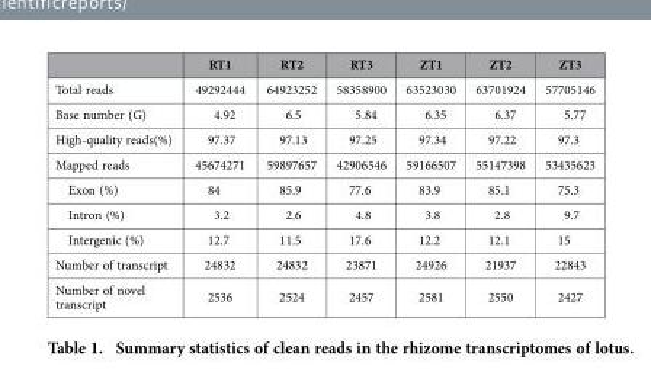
<table><thead><tr><td></td><td>RT1</td><td>RT2</td><td>RT3</td><td>ZT1</td><td>ZT2</td><td>ZT3</td></tr></thead><tbody><tr><td>Total reads</td><td>49292444</td><td>64923252</td><td>58358900</td><td>63523030</td><td>63701924</td><td>57705146</td></tr><tr><td>Base number (G)</td><td>4.92</td><td>6.5</td><td>5.84</td><td>6.35</td><td>6.37</td><td>5.77</td></tr><tr><td>High-quality reads(%)</td><td>97.37</td><td>97.13</td><td>97.25</td><td>97.34</td><td>97.22</td><td>97.3</td></tr><tr><td>Mapped reads</td><td>45674271</td><td>59897657</td><td>42906546</td><td>59166507</td><td>55147398</td><td>53435623</td></tr><tr><td>Exon (%)</td><td>84</td><td>85.9</td><td>77.6</td><td>83.9</td><td>85.1</td><td>75.3</td></tr><tr><td>Intron (%)</td><td>3.2</td><td>2.6</td><td>4.8</td><td>3.8</td><td>2.8</td><td>9.7</td></tr><tr><td>Intergenic (%)</td><td>12.7</td><td>11.5</td><td>17.6</td><td>12.2</td><td>12.1</td><td>15</td></tr><tr><td>Number of transcript</td><td>24832</td><td>24832</td><td>23871</td><td>24926</td><td>21937</td><td>22843</td></tr><tr><td>Number of novel transcript</td><td>2536</td><td>2524</td><td>2457</td><td>2581</td><td>2550</td><td>2427</td></tr></tbody></table>